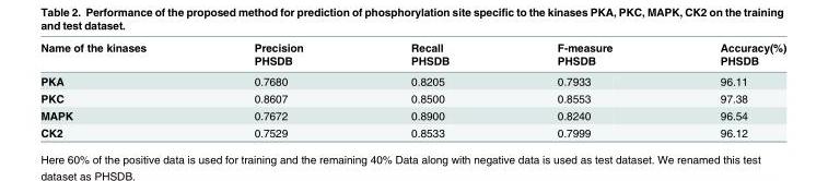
<table><thead><tr><td rowspan="2">Name of the kinases</td><td rowspan="2">Precision PHSDB</td><td rowspan="2">Recall PHSDB</td><td rowspan="2">F-measure PHSDB</td><td rowspan="2">Accuracy(%) PHSDB</td></tr><tr></tr></thead><tbody><tr><td>PKA</td><td>0.7680</td><td>0.8205</td><td>0.7933</td><td>96.11</td></tr><tr><td>PKC</td><td>0.8607</td><td>0.8500</td><td>0.8553</td><td>97.38</td></tr><tr><td>MAPK</td><td>0.7672</td><td>0.8900</td><td>0.8240</td><td>96.54</td></tr><tr><td>CK2</td><td>0.7529</td><td>0.8533</td><td>0.7999</td><td>96.12</td></tr></tbody></table>